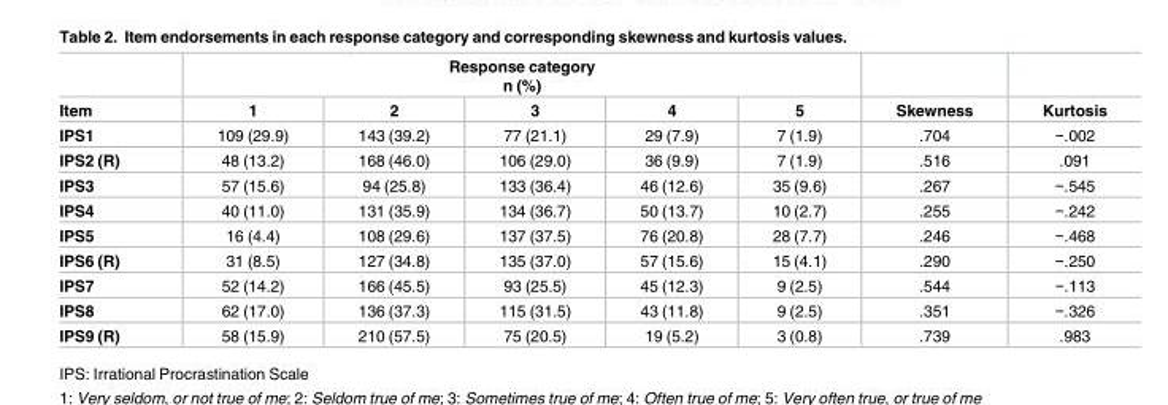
<table><thead><tr><td rowspan="2">Item</td><td colspan="5">Response category n (%)</td><td rowspan="2">Skewness</td><td rowspan="2">Kurtosis</td></tr><tr><td>1</td><td>2</td><td>3</td><td>4</td><td>5</td></tr></thead><tbody><tr><td>IPS1</td><td>109 (29.9)</td><td>143 (39.2)</td><td>77 (21.1)</td><td>29 (7.9)</td><td>7 (1.9)</td><td>.704</td><td>−.002</td></tr><tr><td>IPS2 (R)</td><td>48 (13.2)</td><td>168 (46.0)</td><td>106 (29.0)</td><td>36 (9.9)</td><td>7 (1.9)</td><td>.516</td><td>.091</td></tr><tr><td>IPS3</td><td>57 (15.6)</td><td>94 (25.8)</td><td>133 (36.4)</td><td>46 (12.6)</td><td>35 (9.6)</td><td>.267</td><td>−.545</td></tr><tr><td>IPS4</td><td>40 (11.0)</td><td>131 (35.9)</td><td>134 (36.7)</td><td>50 (13.7)</td><td>10 (2.7)</td><td>.255</td><td>−.242</td></tr><tr><td>IPS5</td><td>16 (4.4)</td><td>108 (29.6)</td><td>137 (37.5)</td><td>76 (20.8)</td><td>28 (7.7)</td><td>.246</td><td>−.468</td></tr><tr><td>IPS6 (R)</td><td>31 (8.5)</td><td>127 (34.8)</td><td>135 (37.0)</td><td>57 (15.6)</td><td>15 (4.1)</td><td>.290</td><td>−.250</td></tr><tr><td>IPS7</td><td>52 (14.2)</td><td>166 (45.5)</td><td>93 (25.5)</td><td>45 (12.3)</td><td>9 (2.5)</td><td>.544</td><td>−.113</td></tr><tr><td>IPS8</td><td>62 (17.0)</td><td>136 (37.3)</td><td>115 (31.5)</td><td>43 (11.8)</td><td>9 (2.5)</td><td>.351</td><td>−.326</td></tr><tr><td>IPS9 (R)</td><td>58 (15.9)</td><td>210 (57.5)</td><td>75 (20.5)</td><td>19 (5.2)</td><td>3 (0.8)</td><td>.739</td><td>.983</td></tr></tbody></table>